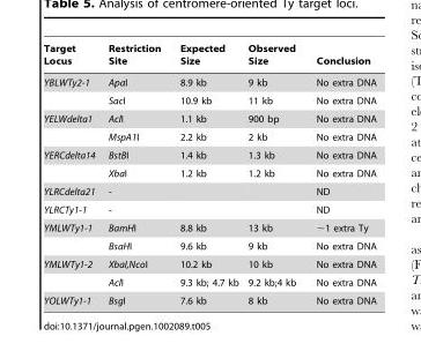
<table><thead><tr><td>Target Locus</td><td>Restriction Site</td><td>Expected Size</td><td>Observed Size</td><td>Conclusion</td></tr></thead><tbody><tr><td rowspan="2">YBLWTy2-1</td><td>ApaI</td><td>8.9 kb</td><td>9 kb</td><td>No extra DNA</td></tr><tr><td>SacI</td><td>10.9 kb</td><td>11 kb</td><td>No extra DNA</td></tr><tr><td rowspan="2">YELWdelta1</td><td>AclI</td><td>1.1 kb</td><td>900 bp</td><td>No extra DNA</td></tr><tr><td>MspA1I</td><td>2.2 kb</td><td>2 kb</td><td>No extra DNA</td></tr><tr><td rowspan="2">YERCdelta14</td><td>BstBI</td><td>1.4 kb</td><td>1.3 kb</td><td>No extra DNA</td></tr><tr><td>XbaI</td><td>1.2 kb</td><td>1.2 kb</td><td>No extra DNA</td></tr><tr><td>YLRCdelta21</td><td>-</td><td></td><td></td><td>ND</td></tr><tr><td>YLRCTy1-1</td><td>-</td><td></td><td></td><td>ND</td></tr><tr><td rowspan="2">YMLWTy1-1</td><td>BamHI</td><td>8.8 kb</td><td>13 kb</td><td>∼1 extra Ty</td></tr><tr><td>BsaHI</td><td>9.6 kb</td><td>9 kb</td><td>No extra DNA</td></tr><tr><td rowspan="2">YMLWTy1-2</td><td>XbaI,NcoI</td><td>10.2 kb</td><td>10 kb</td><td>No extra DNA</td></tr><tr><td>AclI</td><td>9.3 kb; 4.7 kb</td><td>9.2 kb;4 kb</td><td>No extra DNA</td></tr><tr><td>YOLWTy1-1</td><td>BsgI</td><td>7.6 kb</td><td>8 kb</td><td>No extra DNA</td></tr></tbody></table>